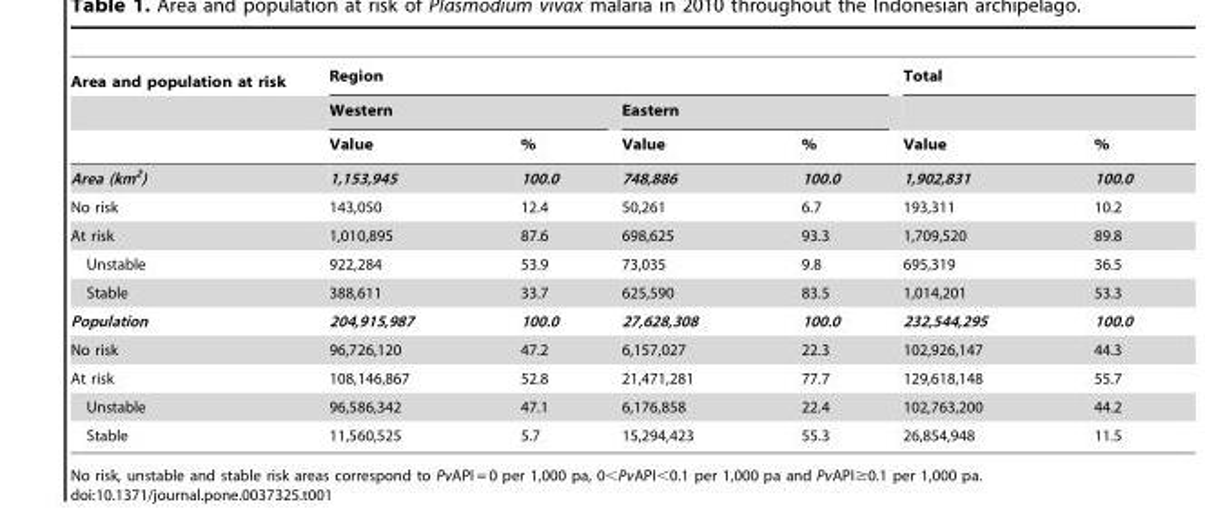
<table><thead><tr><td rowspan="3">Area and population at risk</td><td colspan="4">Region</td><td colspan="2">Total</td></tr><tr><td colspan="2">Western</td><td colspan="2">Eastern</td><td rowspan="2">Value</td><td rowspan="2">%</td></tr><tr><td>Value</td><td>%</td><td>Value</td><td>%</td></tr></thead><tbody><tr><td>Area (km<sup>2</sup>)</td><td>1,153,945</td><td>100.0</td><td>748,886</td><td>100.0</td><td>1,902,831</td><td>100.0</td></tr><tr><td>No risk</td><td>143,050</td><td>12.4</td><td>50,261</td><td>6.7</td><td>193,311</td><td>10.2</td></tr><tr><td>At risk</td><td>1,010,895</td><td>87.6</td><td>698,625</td><td>93.3</td><td>1,709,520</td><td>89.8</td></tr><tr><td>Unstable</td><td>922,284</td><td>53.9</td><td>73,035</td><td>9.8</td><td>695,319</td><td>36.5</td></tr><tr><td>Stable</td><td>388,611</td><td>33.7</td><td>625,590</td><td>83.5</td><td>1,014,201</td><td>53.3</td></tr><tr><td>Population</td><td>204,915,987</td><td>100.0</td><td>27,628,308</td><td>100.0</td><td>232,544,295</td><td>100.0</td></tr><tr><td>No risk</td><td>96,726,120</td><td>47.2</td><td>6,157,027</td><td>22.3</td><td>102,926,147</td><td>44.3</td></tr><tr><td>At risk</td><td>108,146,867</td><td>52.8</td><td>21,471,281</td><td>77.7</td><td>129,618,148</td><td>55.7</td></tr><tr><td>Unstable</td><td>96,586,342</td><td>47.1</td><td>6,176,858</td><td>22.4</td><td>102,763,200</td><td>44.2</td></tr><tr><td>Stable</td><td>11,560,525</td><td>5.7</td><td>15,294,423</td><td>55.3</td><td>26,854,948</td><td>11.5</td></tr></tbody></table>